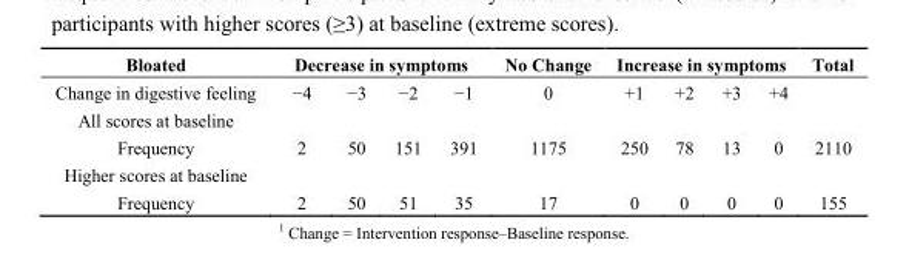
<table><thead><tr><td rowspan="2">Bloated Change in digestive feeling</td><td colspan="4">Decrease in symptoms</td><td rowspan="2">No Change 0</td><td colspan="4">Increase in symptoms</td><td rowspan="2">Total</td></tr><tr><td>−4</td><td>−3</td><td>−2</td><td>−1</td><td>+1</td><td>+2</td><td>+3</td><td>+4</td></tr></thead><tbody><tr><td colspan="11">All scores at baseline</td></tr><tr><td>Frequency</td><td>2</td><td>50</td><td>151</td><td>391</td><td>1175</td><td>250</td><td>78</td><td>13</td><td>0</td><td>2110</td></tr><tr><td colspan="11">Higher scores at baseline</td></tr><tr><td>Frequency</td><td>2</td><td>50</td><td>51</td><td>35</td><td>17</td><td>0</td><td>0</td><td>0</td><td>0</td><td>155</td></tr></tbody></table>